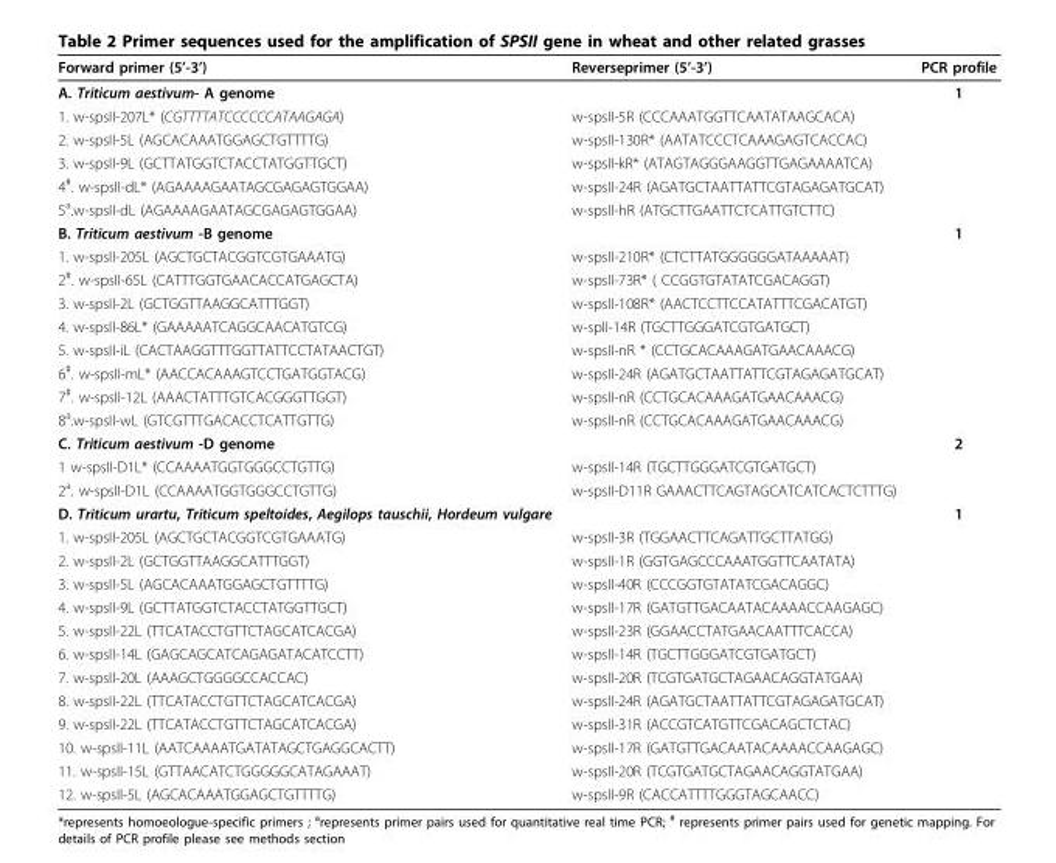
<table><thead><tr><td>Forward primer (5’-3’)</td><td>Reverseprimer (5’-3’)</td><td>PCR profile</td></tr></thead><tbody><tr><td>A. Triticum aestivum- A genome</td><td></td><td>1</td></tr><tr><td>1. w-spsII-207L* (CGTTTTATCCCCCCATAAGAGA)</td><td>w-spsII-5R (CCCAAATGGTTCAATATAAGCACA)</td><td></td></tr><tr><td>2. w-spsII-5L (AGCACAAATGGAGCTGTTTTG)</td><td>w-spsII-130R* (AATATCCCTCAAAGAGTCACCAC)</td><td></td></tr><tr><td>3. w-spsII-9L (GCTTATGGTCTACCTATGGTTGCT)</td><td>w-spsII-kR* (ATAGTAGGGAAGGTTGAGAAAATCA)</td><td></td></tr><tr><td>4<sup>#</sup>. w-spsII-dL* (AGAAAAGAATAGCGAGAGTGGAA)</td><td>w-spsII-24R (AGATGCTAATTATTCGTAGAGATGCAT)</td><td></td></tr><tr><td>5<sup>a</sup>.w-spsII-dL (AGAAAAGAATAGCGAGAGTGGAA)</td><td>w-spsII-hR (ATGCTTGAATTCTCATTGTCTTC)</td><td></td></tr><tr><td>B. Triticum aestivum -B genome</td><td></td><td>1</td></tr><tr><td>1. w-spsII-205L (AGCTGCTACGGTCGTGAAATG)</td><td>w-spsII-210R* (CTCTTATGGGGGGATAAAAAT)</td><td></td></tr><tr><td>2<sup>#</sup>. w-spsII-65L (CATTTGGTGAACACCATGAGCTA)</td><td>w-spsII-73R* ( CCGGTGTATATCGACAGGT)</td><td></td></tr><tr><td>3. w-spsII-2L (GCTGGTTAAGGCATTTGGT)</td><td>w-spsII-108R* (AACTCCTTCCATATTTCGACATGT)</td><td></td></tr><tr><td>4. w-spsII-86L* (GAAAAATCAGGCAACATGTCG)</td><td>w-spII-14R (TGCTTGGGATCGTGATGCT)</td><td></td></tr><tr><td>5. w-spsII-iL (CACTAAGGTTTGGTTATTCCTATAACTGT)</td><td>w-spsII-nR * (CCTGCACAAAGATGAACAAACG)</td><td></td></tr><tr><td>6<sup>#</sup>. w-spsII-mL* (AACCACAAAGTCCTGATGGTACG)</td><td>w-spsII-24R (AGATGCTAATTATTCGTAGAGATGCAT)</td><td></td></tr><tr><td>7<sup>#</sup>. w-spsII-12L (AAACTATTTGTCACGGGTTGGT)</td><td>w-spsII-nR (CCTGCACAAAGATGAACAAACG)</td><td></td></tr><tr><td>8<sup>a</sup>.w-spsII-wL (GTCGTTTGACACCTCATTGTTG)</td><td>w-spsII-nR (CCTGCACAAAGATGAACAAACG)</td><td></td></tr><tr><td>C. Triticum aestivum -D genome</td><td></td><td>2</td></tr><tr><td>1 w-spsII-D1L* (CCAAAATGGTGGGCCTGTTG)</td><td>w-spsII-14R (TGCTTGGGATCGTGATGCT)</td><td></td></tr><tr><td>2<sup>a</sup>. w-spsII-D1L (CCAAAATGGTGGGCCTGTTG)</td><td>w-spsII-D11R GAAACTTCAGTAGCATCATCACTCTTTG)</td><td></td></tr><tr><td>D. Triticum urartu, Triticum speltoides, Aegilops tauschii, Hordeum vulgare</td><td></td><td>1</td></tr><tr><td>1. w-spsII-205L (AGCTGCTACGGTCGTGAAATG)</td><td>w-spsII-3R (TGGAACTTCAGATTGCTTATGG)</td><td></td></tr><tr><td>2. w-spsII-2L (GCTGGTTAAGGCATTTGGT)</td><td>w-spsII-1R (GGTGAGCCCAAATGGTTCAATATA)</td><td></td></tr><tr><td>3. w-spsII-5L (AGCACAAATGGAGCTGTTTTG)</td><td>w-spsII-40R (CCCGGTGTATATCGACAGGC)</td><td></td></tr><tr><td>4. w-spsII-9L (GCTTATGGTCTACCTATGGTTGCT)</td><td>w-spsII-17R (GATGTTGACAATACAAAACCAAGAGC)</td><td></td></tr><tr><td>5. w-spsII-22L (TTCATACCTGTTCTAGCATCACGA)</td><td>w-spsII-23R (GGAACCTATGAACAATTTCACCA)</td><td></td></tr><tr><td>6. w-spsII-14L (GAGCAGCATCAGAGATACATCCTT)</td><td>w-spsII-14R (TGCTTGGGATCGTGATGCT)</td><td></td></tr><tr><td>7. w-spsII-20L (AAAGCTGGGGCCACCAC)</td><td>w-spsII-20R (TCGTGATGCTAGAACAGGTATGAA)</td><td></td></tr><tr><td>8. w-spsII-22L (TTCATACCTGTTCTAGCATCACGA)</td><td>w-spsII-24R (AGATGCTAATTATTCGTAGAGATGCAT)</td><td></td></tr><tr><td>9. w-spsII-22L (TTCATACCTGTTCTAGCATCACGA)</td><td>w-spsII-31R (ACCGTCATGTTCGACAGCTCTAC)</td><td></td></tr><tr><td>10. w-spsII-11L (AATCAAAATGATATAGCTGAGGCACTT)</td><td>w-spsII-17R (GATGTTGACAATACAAAACCAAGAGC)</td><td></td></tr><tr><td>11. w-spsII-15L (GTTAACATCTGGGGGCATAGAAAT)</td><td>w-spsII-20R (TCGTGATGCTAGAACAGGTATGAA)</td><td></td></tr><tr><td>12. w-spsII-5L (AGCACAAATGGAGCTGTTTTG)</td><td>w-spsII-9R (CACCATTTTGGGTAGCAACC)</td><td></td></tr></tbody></table>